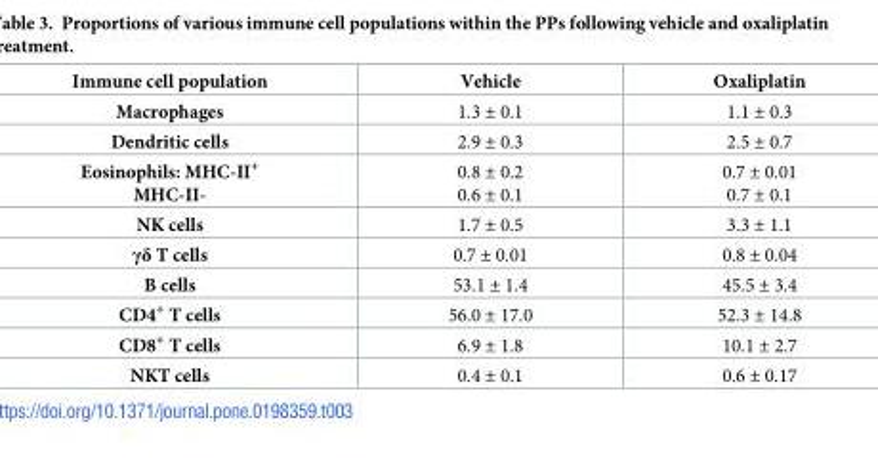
<table><thead><tr><td>Immune cell population</td><td>Vehicle</td><td>Oxaliplatin</td></tr></thead><tbody><tr><td>Macrophages</td><td>1.3 ± 0.1</td><td>1.1 ± 0.3</td></tr><tr><td>Dendritic cells</td><td>2.9 ± 0.3</td><td>2.5 ± 0.7</td></tr><tr><td>Eosinophils: MHC-II<sup>+</sup> MHC-II-</td><td>0.8 ± 0.2 0.6 ± 0.1</td><td>0.7 ± 0.01 0.7 ± 0.1</td></tr><tr><td>NK cells</td><td>1.7 ± 0.5</td><td>3.3 ± 1.1</td></tr><tr><td>γδ T cells</td><td>0.7 ± 0.01</td><td>0.8 ± 0.04</td></tr><tr><td>B cells</td><td>53.1 ± 1.4</td><td>45.5 ± 3.4</td></tr><tr><td>CD4<sup>+</sup> T cells</td><td>56.0 ± 17.0</td><td>52.3 ± 14.8</td></tr><tr><td>CD8<sup>+</sup> T cells</td><td>6.9 ± 1.8</td><td>10.1 ± 2.7</td></tr><tr><td>NKT cells</td><td>0.4 ± 0.1</td><td>0.6 ± 0.17</td></tr></tbody></table>